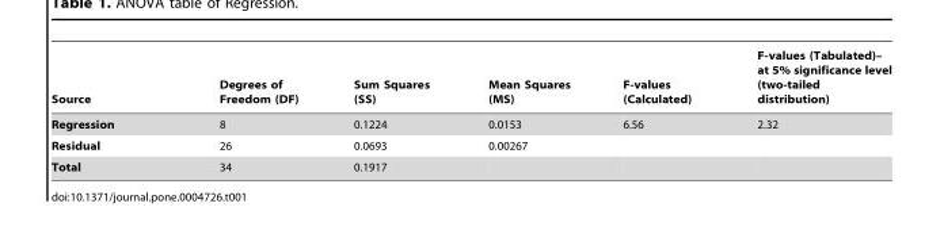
<table><thead><tr><td>Source</td><td>Degrees of Freedom (DF)</td><td>Sum Squares (SS)</td><td>Mean Squares (MS)</td><td>F-values (Calculated)</td><td>F-values (Tabulated)– at 5% significance level (two-tailed distribution)</td></tr></thead><tbody><tr><td>Regression</td><td>8</td><td>0.1224</td><td>0.0153</td><td>6.56</td><td>2.32</td></tr><tr><td>Residual</td><td>26</td><td>0.0693</td><td>0.00267</td><td></td><td></td></tr><tr><td>Total</td><td>34</td><td>0.1917</td><td></td><td></td><td></td></tr></tbody></table>